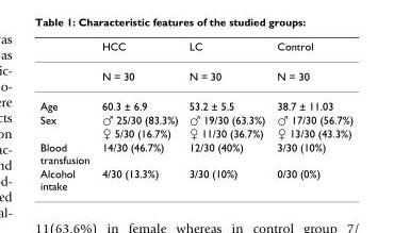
<table><thead><tr><td></td><td>HCC</td><td>LC</td><td>Control</td></tr></thead><tbody><tr><td></td><td>N = 30</td><td>N = 30</td><td>N = 30</td></tr><tr><td>Age</td><td>60.3 ± 6.9</td><td>53.2 ± 5.5</td><td>38.7 ± 11.03</td></tr><tr><td rowspan="2">Sex</td><td>♂ 25/30 (83.3%)</td><td>♂ 19/30 (63.3%)</td><td>♂ 17/30 (56.7%)</td></tr><tr><td>♀ 5/30 (16.7%)</td><td>♀ 11/30 (36.7%)</td><td>♀ 13/30 (43.3%)</td></tr><tr><td>Blood transfusion</td><td>14/30 (46.7%)</td><td>12/30 (40%)</td><td>3/30 (10%)</td></tr><tr><td>Alcohol intake</td><td>4/30 (13.3%)</td><td>3/30 (10%)</td><td>0/30 (0%)</td></tr></tbody></table>